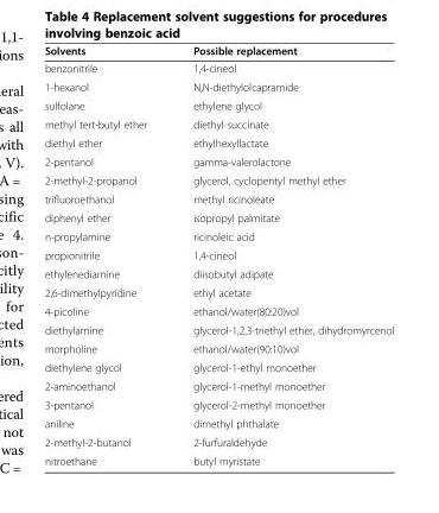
<table><thead><tr><td>Solvents</td><td>Possible replacement</td></tr></thead><tbody><tr><td>benzonitrile</td><td>1,4-cineol</td></tr><tr><td>1-hexanol</td><td>N,N-diethylolcapramide</td></tr><tr><td>sulfolane</td><td>ethylene glycol</td></tr><tr><td>methyl tert-butyl ether</td><td>diethyl succinate</td></tr><tr><td>diethyl ether</td><td>ethylhexyllactate</td></tr><tr><td>2-pentanol</td><td>gamma-valerolactone</td></tr><tr><td>2-methyl-2-propanol</td><td>glycerol, cyclopentyl methyl ether</td></tr><tr><td>trifluoroethanol</td><td>methyl ricinoleate</td></tr><tr><td>diphenyl ether</td><td>isopropyl palmitate</td></tr><tr><td>n-propylamine</td><td>ricinoleic acid</td></tr><tr><td>propionitrile</td><td>1,4-cineol</td></tr><tr><td>ethylenediamine</td><td>diisobutyl adipate</td></tr><tr><td>2,6-dimethylpyridine</td><td>ethyl acetate</td></tr><tr><td>4-picoline</td><td>ethanol/water(80:20)vol</td></tr><tr><td>diethylamine</td><td>glycerol-1,2,3-triethyl ether, dihydromyrcenol</td></tr><tr><td>morpholine</td><td>ethanol/water(90:10)vol</td></tr><tr><td>diethylene glycol</td><td>glycerol-1-ethyl monoether</td></tr><tr><td>2-aminoethanol</td><td>glycerol-1-methyl monoether</td></tr><tr><td>3-pentanol</td><td>glycerol-2-methyl monoether</td></tr><tr><td>aniline</td><td>dimethyl phthalate</td></tr><tr><td>2-methyl-2-butanol</td><td>2-furfuraldehyde</td></tr><tr><td>nitroethane</td><td>butyl myristate</td></tr></tbody></table>